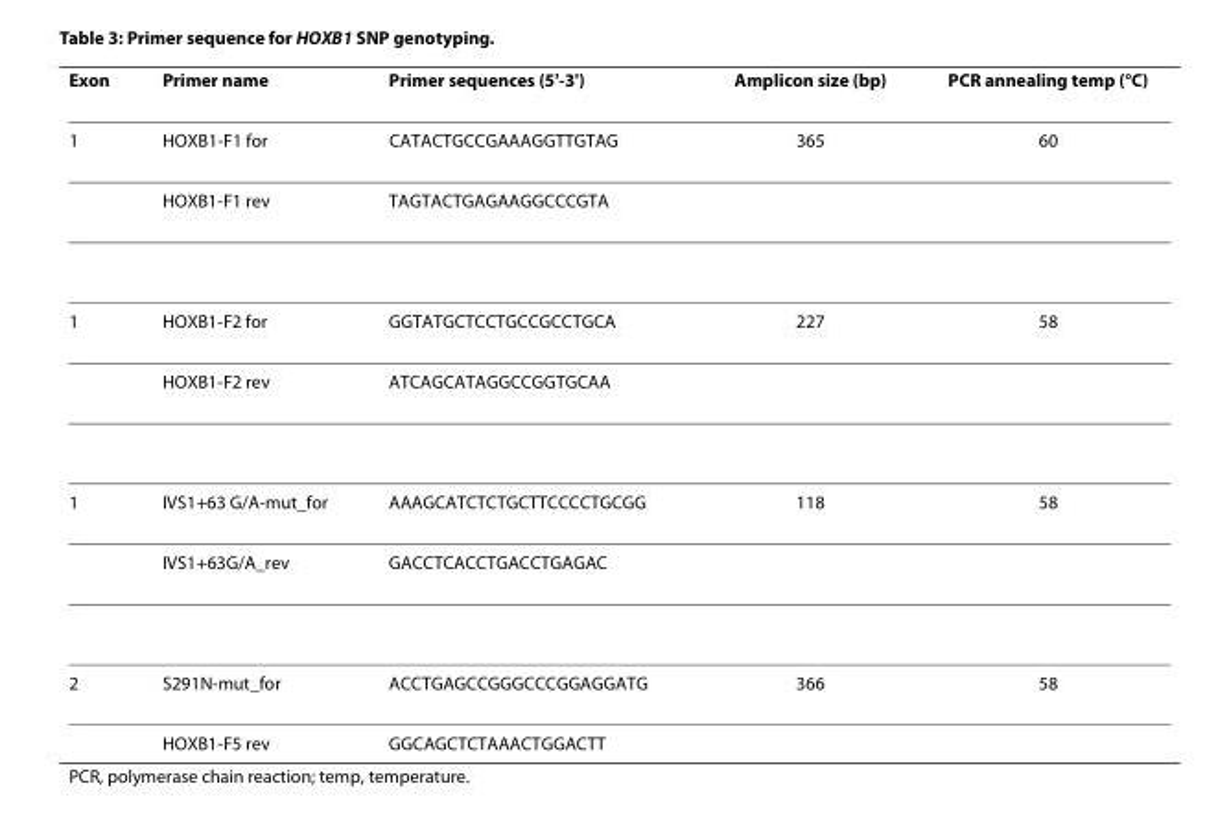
<table><thead><tr><td>Exon</td><td>Primer name</td><td>Primer sequences (5&#x27;-3&#x27;)</td><td>Amplicon size (bp)</td><td>PCR annealing temp (°C)</td></tr></thead><tbody><tr><td rowspan="2">1</td><td>HOXB1-F1 for</td><td>CATACTGCCGAAAGGTTGTAG</td><td>365</td><td>60</td></tr><tr><td>HOXB1-F1 rev</td><td>TAGTACTGAGAAGGCCCGTA</td><td></td><td></td></tr><tr><td rowspan="2">1</td><td>HOXB1-F2 for</td><td>GGTATGCTCCTGCCGCCTGCA</td><td>227</td><td>58</td></tr><tr><td>HOXB1-F2 rev</td><td>ATCAGCATAGGCCGGTGCAA</td><td></td><td></td></tr><tr><td rowspan="2">1</td><td>IVS1+63 G/A-mut_for</td><td>AAAGCATCTCTGCTTCCCCTGCGG</td><td>118</td><td>58</td></tr><tr><td>IVS1+63G/A_rev</td><td>GACCTCACCTGACCTGAGAC</td><td></td><td></td></tr><tr><td rowspan="2">2</td><td>S291N-mut_for</td><td>ACCTGAGCCGGGCCCGGAGGATG</td><td>366</td><td>58</td></tr><tr><td>HOXB1-F5 rev</td><td>GGCAGCTCTAAACTGGACTT</td><td></td><td></td></tr></tbody></table>